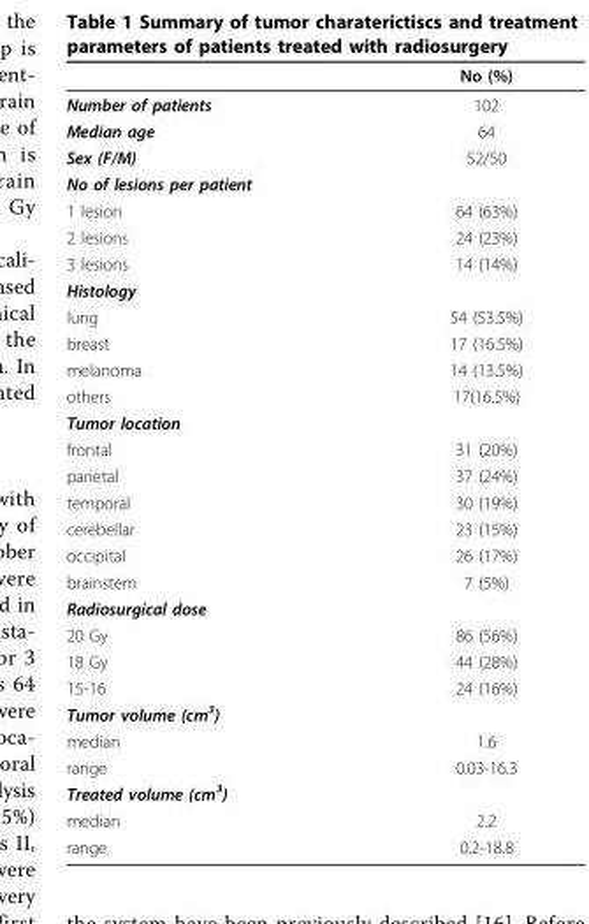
<table><thead><tr><td></td><td>No (%)</td></tr></thead><tbody><tr><td>Number of patients</td><td>102</td></tr><tr><td>Median age</td><td>64</td></tr><tr><td>Sex (F/M)</td><td>52/50</td></tr><tr><td colspan="2">No of lesions per patient</td></tr><tr><td>1 lesion</td><td>64 (63%)</td></tr><tr><td>2 lesions</td><td>24 (23%)</td></tr><tr><td>3 lesions</td><td>14 (14%)</td></tr><tr><td colspan="2">Histology</td></tr><tr><td>lung</td><td>54 (53.5%)</td></tr><tr><td>breast</td><td>17 (16.5%)</td></tr><tr><td>melanoma</td><td>14 (13.5%)</td></tr><tr><td>others</td><td>17(16.5%)</td></tr><tr><td colspan="2">Tumor location</td></tr><tr><td>frontal</td><td>31 (20%)</td></tr><tr><td>parietal</td><td>37 (24%)</td></tr><tr><td>temporal</td><td>30 (19%)</td></tr><tr><td>cerebellar</td><td>23 (15%)</td></tr><tr><td>occipital</td><td>26 (17%)</td></tr><tr><td>brainstem</td><td>7 (5%)</td></tr><tr><td colspan="2">Radiosurgical dose</td></tr><tr><td>20 Gy</td><td>86 (56%)</td></tr><tr><td>18 Gy</td><td>44 (28%)</td></tr><tr><td>15-16</td><td>24 (16%)</td></tr><tr><td colspan="2">Tumor volume (cm<sup>3</sup>)</td></tr><tr><td>median</td><td>1.6</td></tr><tr><td>range</td><td>0.03-16.3</td></tr><tr><td colspan="2">Treated volume (cm<sup>3</sup>)</td></tr><tr><td>median</td><td>2.2</td></tr><tr><td>range</td><td>0.2-18.8</td></tr></tbody></table>